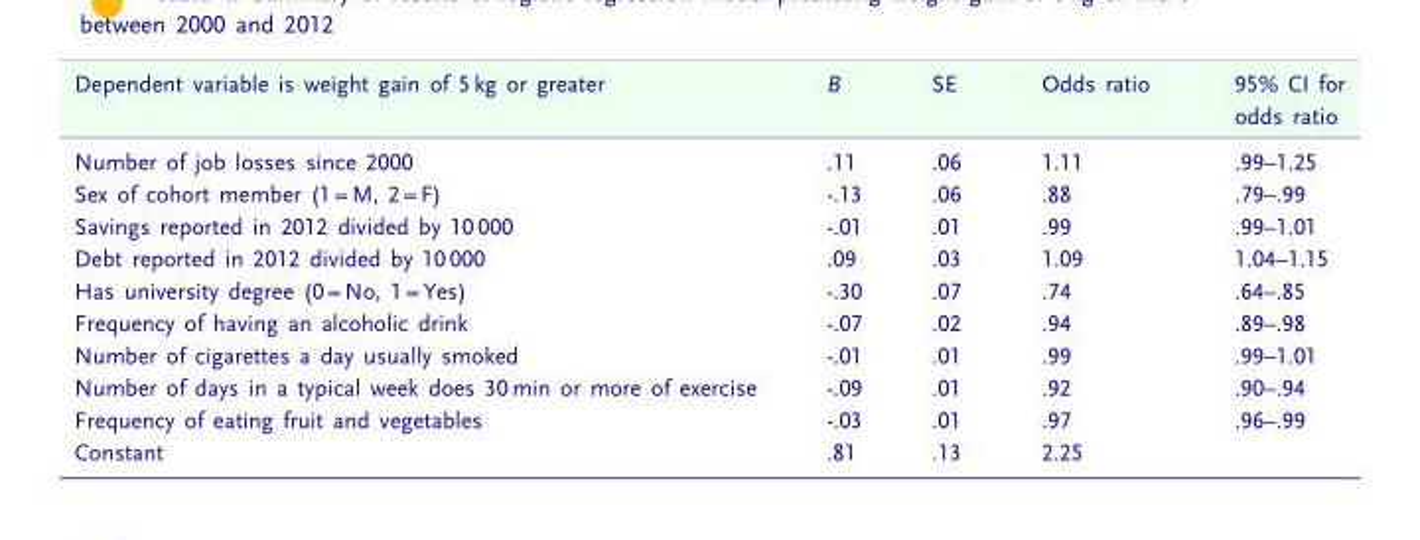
<table><thead><tr><td>Dependent variable is weight gain of 5 kg or greater</td><td>B</td><td>SE</td><td>Odds ratio</td><td>95% CI for odds ratio</td></tr></thead><tbody><tr><td>Number of job losses since 2000</td><td>.11</td><td>.06</td><td>1.11</td><td>.99–1.25</td></tr><tr><td>Sex of cohort member (1 = M, 2 = F)</td><td>-.13</td><td>.06</td><td>.88</td><td>.79–.99</td></tr><tr><td>Savings reported in 2012 divided by 10 000</td><td>-.01</td><td>.01</td><td>.99</td><td>.99–1.01</td></tr><tr><td>Debt reported in 2012 divided by 10 000</td><td>.09</td><td>.03</td><td>1.09</td><td>1.04–1.15</td></tr><tr><td>Has university degree (0 = No, 1 = Yes)</td><td>-.30</td><td>.07</td><td>.74</td><td>.64–.85</td></tr><tr><td>Frequency of having an alcoholic drink</td><td>-.07</td><td>.02</td><td>.94</td><td>.89–.98</td></tr><tr><td>Number of cigarettes a day usually smoked</td><td>-.01</td><td>.01</td><td>.99</td><td>.99–1.01</td></tr><tr><td>Number of days in a typical week does 30 min or more of exercise</td><td>-.09</td><td>.01</td><td>.92</td><td>.90–.94</td></tr><tr><td>Frequency of eating fruit and vegetables</td><td>-.03</td><td>.01</td><td>.97</td><td>.96–.99</td></tr><tr><td>Constant</td><td>.81</td><td>.13</td><td>2.25</td><td></td></tr></tbody></table>